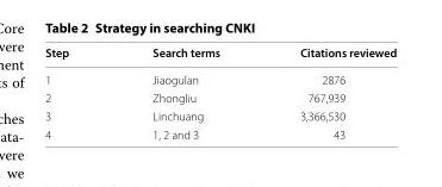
<table><thead><tr><td>Step</td><td>Search terms</td><td>Citations reviewed</td></tr></thead><tbody><tr><td>1</td><td>Jiaogulan</td><td>2876</td></tr><tr><td>2</td><td>Zhongliu</td><td>767,939</td></tr><tr><td>3</td><td>Linchuang</td><td>3,366,530</td></tr><tr><td>4</td><td>1, 2 and 3</td><td>43</td></tr></tbody></table>